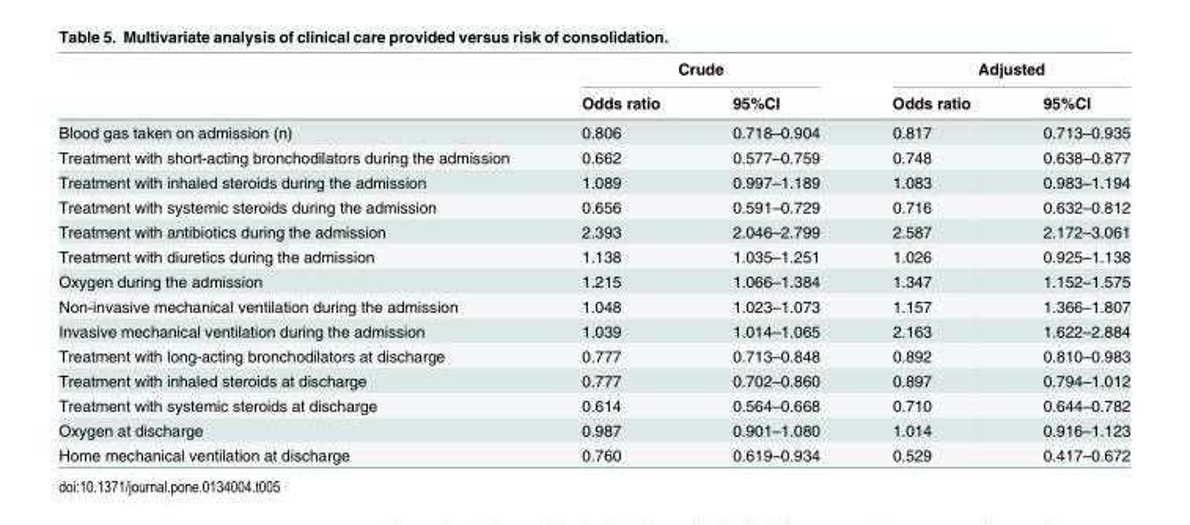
<table><thead><tr><td rowspan="2"></td><td colspan="2">Crude</td><td colspan="2">Adjusted</td></tr><tr><td>Odds ratio</td><td>95%CI</td><td>Odds ratio</td><td>95%CI</td></tr></thead><tbody><tr><td>Blood gas taken on admission (n)</td><td>0.806</td><td>0.718–0.904</td><td>0.817</td><td>0.713–0.935</td></tr><tr><td>Treatment with short-acting bronchodilators during the admission</td><td>0.662</td><td>0.577–0.759</td><td>0.748</td><td>0.638–0.877</td></tr><tr><td>Treatment with inhaled steroids during the admission</td><td>1.089</td><td>0.997–1.189</td><td>1.083</td><td>0.983–1.194</td></tr><tr><td>Treatment with systemic steroids during the admission</td><td>0.656</td><td>0.591–0.729</td><td>0.716</td><td>0.632–0.812</td></tr><tr><td>Treatment with antibiotics during the admission</td><td>2.393</td><td>2.046–2.799</td><td>2.587</td><td>2.172–3.061</td></tr><tr><td>Treatment with diuretics during the admission</td><td>1.138</td><td>1.035–1.251</td><td>1.026</td><td>0.925–1.138</td></tr><tr><td>Oxygen during the admission</td><td>1.215</td><td>1.066–1.384</td><td>1.347</td><td>1.152–1.575</td></tr><tr><td>Non-invasive mechanical ventilation during the admission</td><td>1.048</td><td>1.023–1.073</td><td>1.157</td><td>1.366–1.807</td></tr><tr><td>Invasive mechanical ventilation during the admission</td><td>1.039</td><td>1.014–1.065</td><td>2.163</td><td>1.622–2.884</td></tr><tr><td>Treatment with long-acting bronchodilators at discharge</td><td>0.777</td><td>0.713–0.848</td><td>0.892</td><td>0.810–0.983</td></tr><tr><td>Treatment with inhaled steroids at discharge</td><td>0.777</td><td>0.702–0.860</td><td>0.897</td><td>0.794–1.012</td></tr><tr><td>Treatment with systemic steroids at discharge</td><td>0.614</td><td>0.564–0.668</td><td>0.710</td><td>0.644–0.782</td></tr><tr><td>Oxygen at discharge</td><td>0.987</td><td>0.901–1.080</td><td>1.014</td><td>0.916–1.123</td></tr><tr><td>Home mechanical ventilation at discharge</td><td>0.760</td><td>0.619–0.934</td><td>0.529</td><td>0.417–0.672</td></tr></tbody></table>